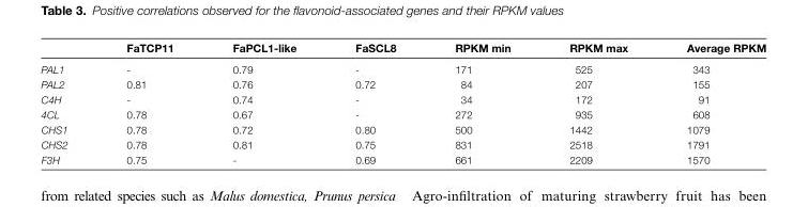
<table><thead><tr><td></td><td>FaTCP11</td><td>FaPCL1-like</td><td>FaSCL8</td><td>RPKM min</td><td>RPKM max</td><td>Average RPKM</td></tr></thead><tbody><tr><td>PAL1</td><td>-</td><td>0.79</td><td>-</td><td>171</td><td>525</td><td>343</td></tr><tr><td>PAL2</td><td>0.81</td><td>0.76</td><td>0.72</td><td>84</td><td>207</td><td>155</td></tr><tr><td>C4H</td><td>-</td><td>0.74</td><td>-</td><td>34</td><td>172</td><td>91</td></tr><tr><td>4CL</td><td>0.78</td><td>0.67</td><td>-</td><td>272</td><td>935</td><td>608</td></tr><tr><td>CHS1</td><td>0.78</td><td>0.72</td><td>0.80</td><td>500</td><td>1442</td><td>1079</td></tr><tr><td>CHS2</td><td>0.78</td><td>0.81</td><td>0.75</td><td>831</td><td>2518</td><td>1791</td></tr><tr><td>F3H</td><td>0.75</td><td>-</td><td>0.69</td><td>661</td><td>2209</td><td>1570</td></tr></tbody></table>